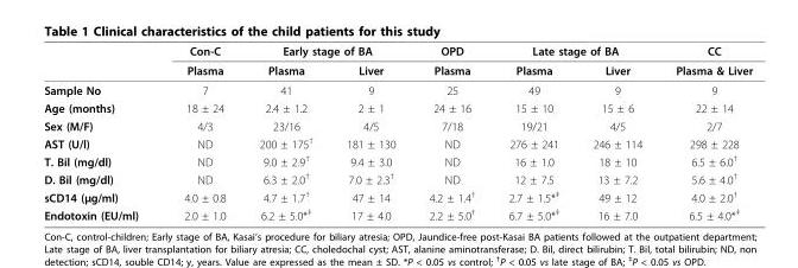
<table><thead><tr><td rowspan="2"></td><td rowspan="2">Con-C Plasma</td><td colspan="2">Early stage of BA</td><td rowspan="2">OPD Plasma</td><td colspan="2">Late stage of BA</td><td rowspan="2">CC Plasma &amp; Liver</td></tr><tr><td>Plasma</td><td>Liver</td><td>Plasma</td><td>Liver</td></tr></thead><tbody><tr><td>Sample No</td><td>7</td><td>41</td><td>9</td><td>25</td><td>49</td><td>9</td><td>9</td></tr><tr><td>Age (months)</td><td>18 ± 24</td><td>2.4 ± 1.2</td><td>2 ± 1</td><td>24 ± 16</td><td>15 ± 10</td><td>15 ± 6</td><td>22 ± 14</td></tr><tr><td>Sex (M/F)</td><td>4/3</td><td>23/16</td><td>4/5</td><td>7/18</td><td>19/21</td><td>4/5</td><td>2/7</td></tr><tr><td>AST (U/l)</td><td>ND</td><td>200 ± 175<sup>†</sup></td><td>181 ± 130</td><td>ND</td><td>276 ± 241</td><td>246 ± 114</td><td>298 ± 228</td></tr><tr><td>T. Bil (mg/dl)</td><td>ND</td><td>9.0 ± 2.9<sup>†</sup></td><td>9.4 ± 3.0</td><td>ND</td><td>16 ± 1.0</td><td>18 ± 10</td><td>6.5 ± 6.0<sup>†</sup></td></tr><tr><td>D. Bil (mg/dl)</td><td>ND</td><td>6.3 ± 2.0<sup>†</sup></td><td>7.0 ± 2.3<sup>†</sup></td><td>ND</td><td>12 ± 7.5</td><td>13 ± 7.2</td><td>5.6 ± 4.0<sup>†</sup></td></tr><tr><td>sCD14 (μg/ml)</td><td>4.0 ± 0.8</td><td>4.7 ± 1.7<sup>†</sup></td><td>47 ± 14</td><td>4.2 ± 1.4<sup>†</sup></td><td>2.7 ± 1.5*<sup>‡</sup></td><td>49 ± 12</td><td>4.0 ± 2.0<sup>†</sup></td></tr><tr><td>Endotoxin (EU/ml)</td><td>2.0 ± 1.0</td><td>6.2 ± 5.0*<sup>‡</sup></td><td>17 ± 4.0</td><td>2.2 ± 5.0<sup>†</sup></td><td>6.7 ± 5.0*<sup>‡</sup></td><td>16 ± 7.0</td><td>6.5 ± 4.0*<sup>‡</sup></td></tr></tbody></table>